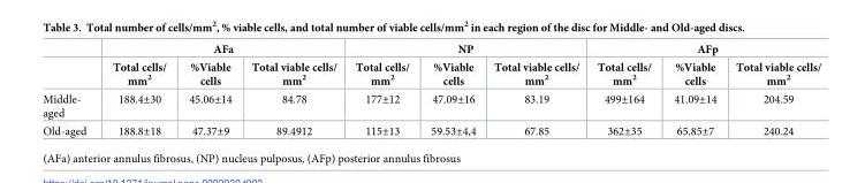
<table><thead><tr><td rowspan="2"></td><td colspan="3">AFa</td><td colspan="3">NP</td><td colspan="3">AFp</td></tr><tr><td>Total cells/ mm<sup>2</sup></td><td>%Viable cells</td><td>Total viable cells/ mm<sup>2</sup></td><td>Total cells/ mm<sup>2</sup></td><td>%Viable cells</td><td>Total viable cells/ mm<sup>2</sup></td><td>Total cells/ mm<sup>2</sup></td><td>%Viable cells</td><td>Total viable cells/ mm<sup>2</sup></td></tr></thead><tbody><tr><td>Middle- aged</td><td>188.4±30</td><td>45.06±14</td><td>84.78</td><td>177±12</td><td>47.09±16</td><td>83.19</td><td>499±164</td><td>41.09±14</td><td>204.59</td></tr><tr><td>Old-aged</td><td>188.8±18</td><td>47.37±9</td><td>89.4912</td><td>115±13</td><td>59.53±4,4</td><td>67.85</td><td>362±35</td><td>65.85±7</td><td>240.24</td></tr></tbody></table>